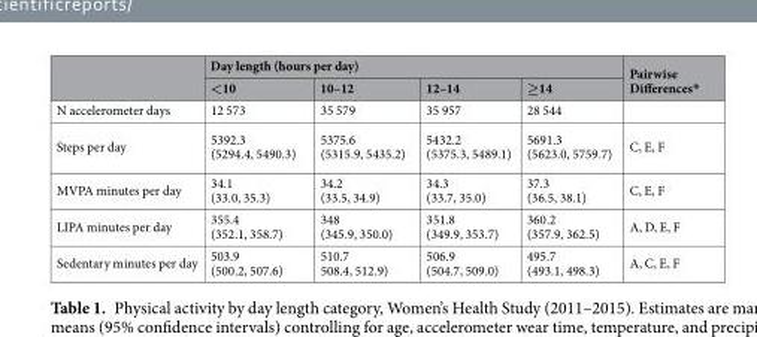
<table><thead><tr><td rowspan="2"></td><td colspan="4">Day length (hours per day)</td><td rowspan="2">Pairwise Differences*</td></tr><tr><td>&lt;10</td><td>10–12</td><td>12–14</td><td>≥14</td></tr></thead><tbody><tr><td>N accelerometer days</td><td>12 573</td><td>35 579</td><td>35 957</td><td>28 544</td><td></td></tr><tr><td>Steps per day</td><td>5392.3 (5294.4, 5490.3)</td><td>5375.6 (5315.9, 5435.2)</td><td>5432.2 (5375.3, 5489.1)</td><td>5691.3 (5623.0, 5759.7)</td><td>C, E, F</td></tr><tr><td>MVPA minutes per day</td><td>34.1 (33.0, 35.3)</td><td>34.2 (33.5, 34.9)</td><td>34.3 (33.7, 35.0)</td><td>37.3 (36.5, 38.1)</td><td>C, E, F</td></tr><tr><td>LIPA minutes per day</td><td>355.4 (352.1, 358.7)</td><td>348 (345.9, 350.0)</td><td>351.8 (349.9, 353.7)</td><td>360.2 (357.9, 362.5)</td><td>A, D, E, F</td></tr><tr><td>Sedentary minutes per day</td><td>503.9 (500.2, 507.6)</td><td>510.7 508.4, 512.9)</td><td>506.9 (504.7, 509.0)</td><td>495.7 (493.1, 498.3)</td><td>A, C, E, F</td></tr></tbody></table>